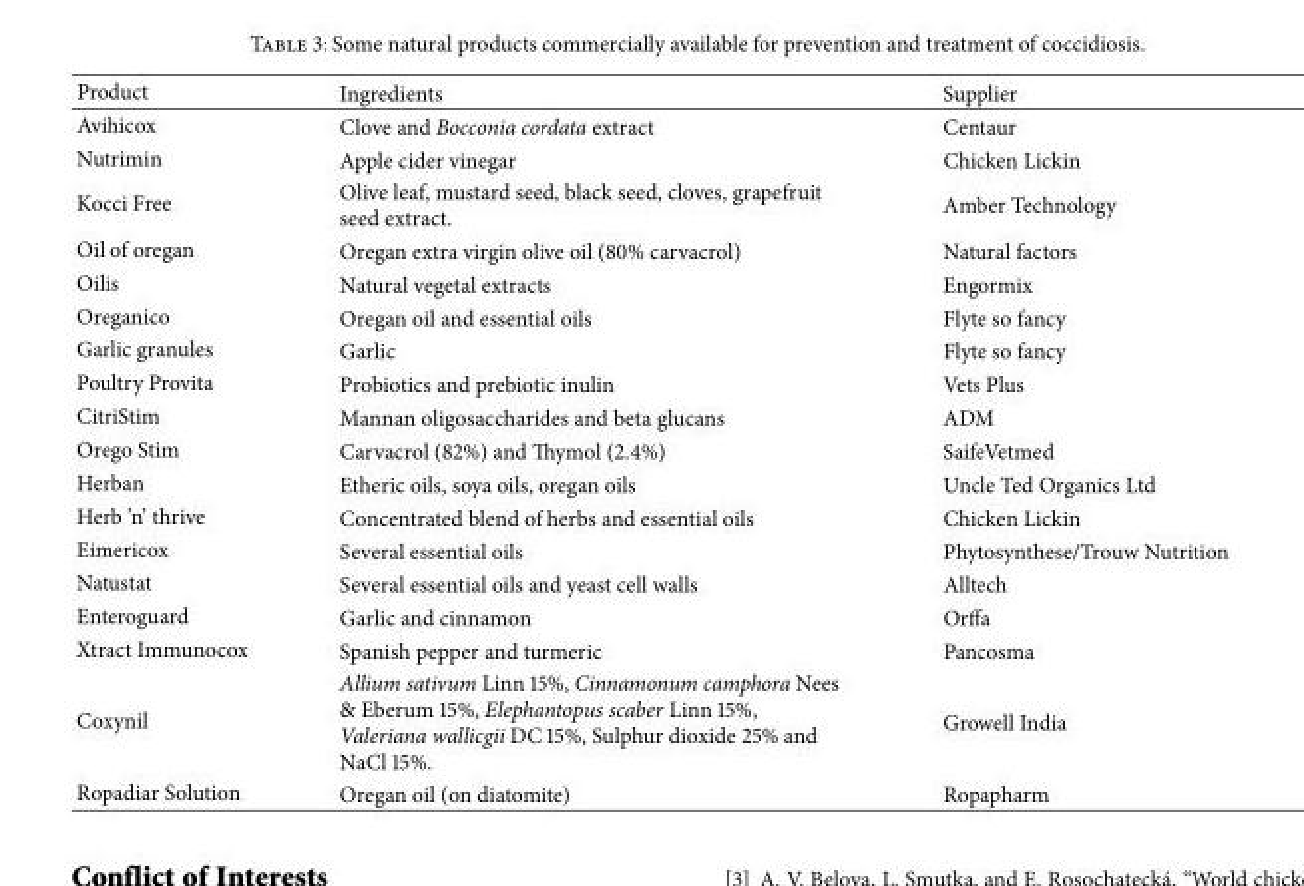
<table><thead><tr><td>Product</td><td>Ingredients</td><td>Supplier</td></tr></thead><tbody><tr><td>Avihicox</td><td>Clove and Bocconia cordata extract</td><td>Centaur</td></tr><tr><td>Nutrimin</td><td>Apple cider vinegar</td><td>Chicken Lickin</td></tr><tr><td>Kocci Free</td><td>Olive leaf, mustard seed, black seed, cloves, grapefruit seed extract.</td><td>Amber Technology</td></tr><tr><td>Oil of oregan</td><td>Oregan extra virgin olive oil (80% carvacrol)</td><td>Natural factors</td></tr><tr><td>Oilis</td><td>Natural vegetal extracts</td><td>Engormix</td></tr><tr><td>Oreganico</td><td>Oregan oil and essential oils</td><td>Flyte so fancy</td></tr><tr><td>Garlic granules</td><td>Garlic</td><td>Flyte so fancy</td></tr><tr><td>Poultry Provita</td><td>Probiotics and prebiotic inulin</td><td>Vets Plus</td></tr><tr><td>CitriStim</td><td>Mannan oligosaccharides and beta glucans</td><td>ADM</td></tr><tr><td>Orego Stim</td><td>Carvacrol (82%) and Thymol (2.4%)</td><td>SaifeVetmed</td></tr><tr><td>Herban</td><td>Etheric oils, soya oils, oregan oils</td><td>Uncle Ted Organics Ltd</td></tr><tr><td>Herb ’n’ thrive</td><td>Concentrated blend of herbs and essential oils</td><td>Chicken Lickin</td></tr><tr><td>Eimericox</td><td>Several essential oils</td><td>Phytosynthese/Trouw Nutrition</td></tr><tr><td>Natustat</td><td>Several essential oils and yeast cell walls</td><td>Alltech</td></tr><tr><td>Enteroguard</td><td>Garlic and cinnamon</td><td>Orffa</td></tr><tr><td>Xtract Immunocox</td><td>Spanish pepper and turmeric</td><td>Pancosma</td></tr><tr><td>Coxynil</td><td>Allium sativum Linn 15%, Cinnamonum camphora Nees &amp; Eberum 15%, Elephantopus scaber Linn 15%, Valeriana wallicgii DC 15%, Sulphur dioxide 25% and NaCl 15%.</td><td>Growell India</td></tr><tr><td>Ropadiar Solution</td><td>Oregan oil (on diatomite)</td><td>Ropapharm</td></tr></tbody></table>